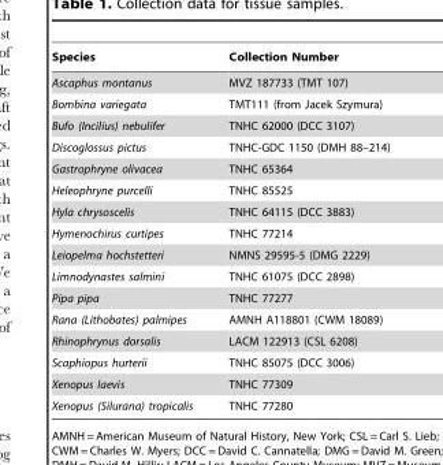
<table><thead><tr><td>Species</td><td>Collection Number</td></tr></thead><tbody><tr><td>Ascaphus montanus</td><td>MVZ 187733 (TMT 107)</td></tr><tr><td>Bombina variegata</td><td>TMT111 (from Jacek Szymura)</td></tr><tr><td>Bufo (Incilius) nebulifer</td><td>TNHC 62000 (DCC 3107)</td></tr><tr><td>Discoglossus pictus</td><td>TNHC-GDC 1150 (DMH 88–214)</td></tr><tr><td>Gastrophryne olivacea</td><td>TNHC 65364</td></tr><tr><td>Heleophryne purcelli</td><td>TNHC 85525</td></tr><tr><td>Hyla chrysoscelis</td><td>TNHC 64115 (DCC 3883)</td></tr><tr><td>Hymenochirus curtipes</td><td>TNHC 77214</td></tr><tr><td>Leiopelma hochstetteri</td><td>NMNS 29595-5 (DMG 2229)</td></tr><tr><td>Limnodynastes salmini</td><td>TNHC 61075 (DCC 2898)</td></tr><tr><td>Pipa pipa</td><td>TNHC 77277</td></tr><tr><td>Rana (Lithobates) palmipes</td><td>AMNH A118801 (CWM 18089)</td></tr><tr><td>Rhinophrynus dorsalis</td><td>LACM 122913 (CSL 6208)</td></tr><tr><td>Scaphiopus hurterii</td><td>TNHC 85075 (DCC 3006)</td></tr><tr><td>Xenopus laevis</td><td>TNHC 77309</td></tr><tr><td>Xenopus (Silurana) tropicalis</td><td>TNHC 77280</td></tr></tbody></table>